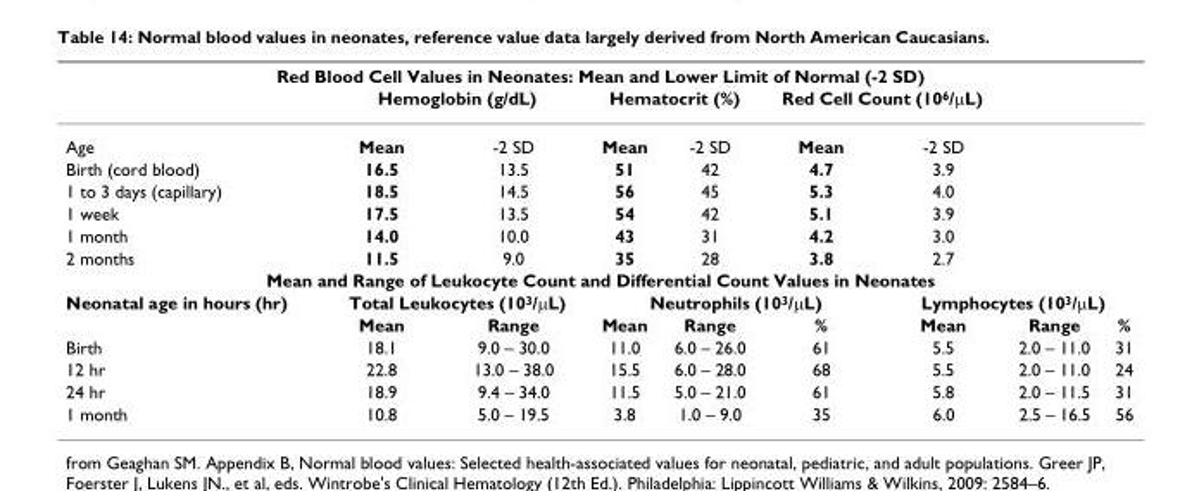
<table><thead><tr><td colspan="9">Red Blood Cell Values in Neonates: Mean and Lower Limit of Normal (-2 SD)</td></tr><tr><td rowspan="2">Age</td><td colspan="2">Hemoglobin (g/dL)</td><td colspan="2">Hematocrit (%)</td><td colspan="2">Red Cell Count (10<sup>6</sup>/μL)</td><td rowspan="2"></td><td rowspan="2"></td></tr><tr><td>Mean</td><td>-2 SD</td><td>Mean</td><td>-2 SD</td><td>Mean</td><td>-2 SD</td></tr></thead><tbody><tr><td>Birth (cord blood)</td><td>16.5</td><td>13.5</td><td>51</td><td>42</td><td>4.7</td><td>3.9</td><td></td><td></td></tr><tr><td>1 to 3 days (capillary)</td><td>18.5</td><td>14.5</td><td>56</td><td>45</td><td>5.3</td><td>4.0</td><td></td><td></td></tr><tr><td>1 week</td><td>17.5</td><td>13.5</td><td>54</td><td>42</td><td>5.1</td><td>3.9</td><td></td><td></td></tr><tr><td>1 month</td><td>14.0</td><td>10.0</td><td>43</td><td>31</td><td>4.2</td><td>3.0</td><td></td><td></td></tr><tr><td>2 months</td><td>11.5</td><td>9.0</td><td>35</td><td>28</td><td>3.8</td><td>2.7</td><td></td><td></td></tr><tr><td colspan="9">Mean and Range of Leukocyte Count and Differential Count Values in Neonates</td></tr><tr><td rowspan="2">Neonatal age in hours (hr)</td><td colspan="2">Total Leukocytes (10<sup>3</sup>/μL)</td><td colspan="3">Neutrophils (10<sup>3</sup>/μL)</td><td colspan="3">Lymphocytes (10<sup>3</sup>/μL)</td></tr><tr><td>Mean</td><td>Range</td><td>Mean</td><td>Range</td><td>%</td><td>Mean</td><td>Range</td><td>%</td></tr><tr><td>Birth</td><td>18.1</td><td>9.0 – 30.0</td><td>11.0</td><td>6.0 – 26.0</td><td>61</td><td>5.5</td><td>2.0 – 11.0</td><td>31</td></tr><tr><td>12 hr</td><td>22.8</td><td>13.0 – 38.0</td><td>15.5</td><td>6.0 – 28.0</td><td>68</td><td>5.5</td><td>2.0 – 11.0</td><td>24</td></tr><tr><td>24 hr</td><td>18.9</td><td>9.4 – 34.0</td><td>11.5</td><td>5.0 – 21.0</td><td>61</td><td>5.8</td><td>2.0 – 11.5</td><td>31</td></tr><tr><td>1 month</td><td>10.8</td><td>5.0 – 19.5</td><td>3.8</td><td>1.0 – 9.0</td><td>35</td><td>6.0</td><td>2.5 – 16.5</td><td>56</td></tr></tbody></table>